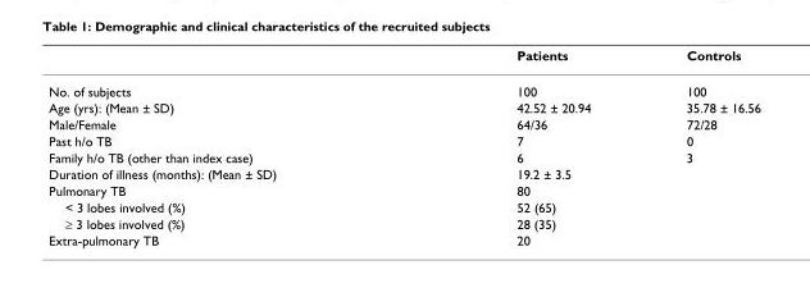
<table><thead><tr><td></td><td>Patients</td><td>Controls</td></tr></thead><tbody><tr><td>No. of subjects</td><td>100</td><td>100</td></tr><tr><td>Age (yrs): (Mean ± SD)</td><td>42.52 ± 20.94</td><td>35.78 ± 16.56</td></tr><tr><td>Male/Female</td><td>64/36</td><td>72/28</td></tr><tr><td>Past h/o TB</td><td>7</td><td>0</td></tr><tr><td>Family h/o TB (other than index case)</td><td>6</td><td>3</td></tr><tr><td>Duration of illness (months): (Mean ± SD)</td><td>19.2 ± 3.5</td><td></td></tr><tr><td>Pulmonary TB</td><td>80</td><td></td></tr><tr><td>&lt; 3 lobes involved (%)</td><td>52 (65)</td><td></td></tr><tr><td>≥ 3 lobes involved (%)</td><td>28 (35)</td><td></td></tr><tr><td>Extra-pulmonary TB</td><td>20</td><td></td></tr></tbody></table>